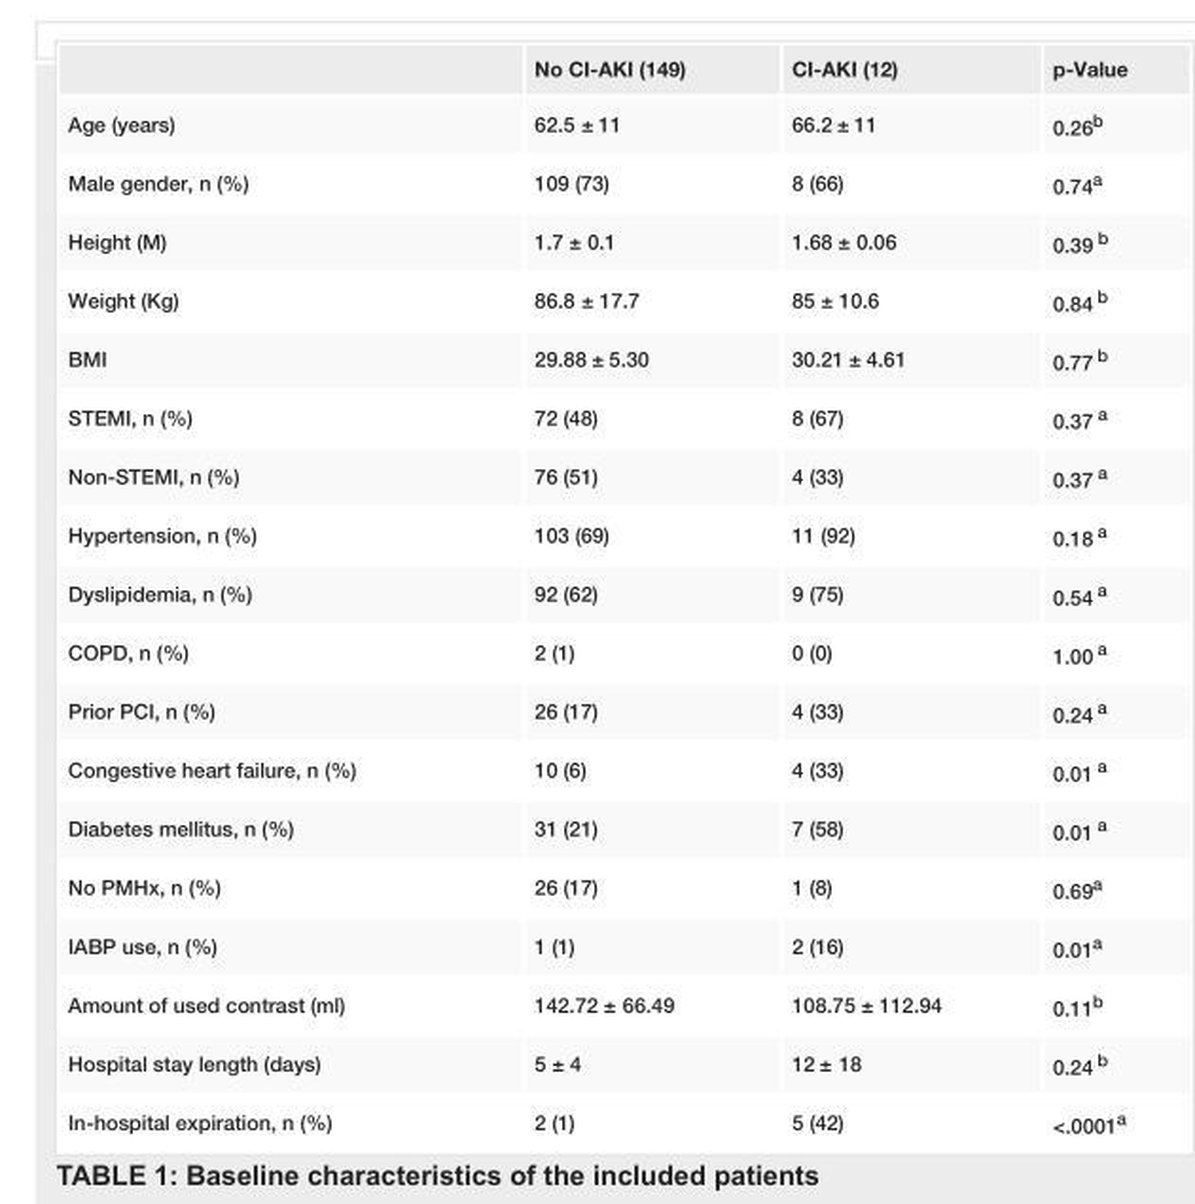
<table><thead><tr><td></td><td>No CI-AKI (149)</td><td>CI-AKI (12)</td><td>p-Value</td></tr></thead><tbody><tr><td>Age (years)</td><td>62.5 ± 11</td><td>66.2 ± 11</td><td>0.26<sup>b</sup></td></tr><tr><td>Male gender, n (%)</td><td>109 (73)</td><td>8 (66)</td><td>0.74<sup>a</sup></td></tr><tr><td>Height (M)</td><td>1.7 ± 0.1</td><td>1.68 ± 0.06</td><td>0.39 <sup>b</sup></td></tr><tr><td>Weight (Kg)</td><td>86.8 ± 17.7</td><td>85 ± 10.6</td><td>0.84 <sup>b</sup></td></tr><tr><td>BMI</td><td>29.88 ± 5.30</td><td>30.21 ± 4.61</td><td>0.77 <sup>b</sup></td></tr><tr><td>STEMI, n (%)</td><td>72 (48)</td><td>8 (67)</td><td>0.37 <sup>a</sup></td></tr><tr><td>Non-STEMI, n (%)</td><td>76 (51)</td><td>4 (33)</td><td>0.37 <sup>a</sup></td></tr><tr><td>Hypertension, n (%)</td><td>103 (69)</td><td>11 (92)</td><td>0.18 <sup>a</sup></td></tr><tr><td>Dyslipidemia, n (%)</td><td>92 (62)</td><td>9 (75)</td><td>0.54 <sup>a</sup></td></tr><tr><td>COPD, n (%)</td><td>2 (1)</td><td>0 (0)</td><td>1.00 <sup>a</sup></td></tr><tr><td>Prior PCI, n (%)</td><td>26 (17)</td><td>4 (33)</td><td>0.24 <sup>a</sup></td></tr><tr><td>Congestive heart failure, n (%)</td><td>10 (6)</td><td>4 (33)</td><td>0.01 <sup>a</sup></td></tr><tr><td>Diabetes mellitus, n (%)</td><td>31 (21)</td><td>7 (58)</td><td>0.01 <sup>a</sup></td></tr><tr><td>No PMHx, n (%)</td><td>26 (17)</td><td>1 (8)</td><td>0.69<sup>a</sup></td></tr><tr><td>IABP use, n (%)</td><td>1 (1)</td><td>2 (16)</td><td>0.01<sup>a</sup></td></tr><tr><td>Amount of used contrast (ml)</td><td>142.72 ± 66.49</td><td>108.75 ± 112.94</td><td>0.11<sup>b</sup></td></tr><tr><td>Hospital stay length (days)</td><td>5 ± 4</td><td>12 ± 18</td><td>0.24 <sup>b</sup></td></tr><tr><td>In-hospital expiration, n (%)</td><td>2 (1)</td><td>5 (42)</td><td>&lt;.0001<sup>a</sup></td></tr></tbody></table>